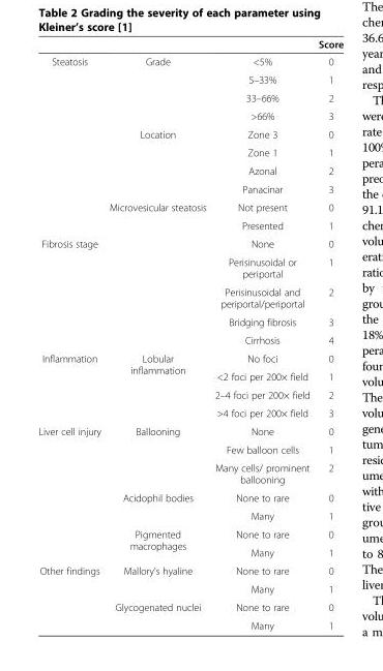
<table><thead><tr><td></td><td></td><td></td><td>Score</td></tr></thead><tbody><tr><td rowspan="10">Steatosis</td><td rowspan="4">Grade</td><td>&lt;5%</td><td>0</td></tr><tr><td>5–33%</td><td>1</td></tr><tr><td>33–66%</td><td>2</td></tr><tr><td>&gt;66%</td><td>3</td></tr><tr><td rowspan="4">Location</td><td>Zone 3</td><td>0</td></tr><tr><td>Zone 1</td><td>1</td></tr><tr><td>Azonal</td><td>2</td></tr><tr><td>Panacinar</td><td>3</td></tr><tr><td rowspan="2">Microvesicular steatosis</td><td>Not present</td><td>0</td></tr><tr><td>Presented</td><td>1</td></tr><tr><td rowspan="5">Fibrosis stage</td><td rowspan="5"></td><td>None</td><td>0</td></tr><tr><td>Perisinusoidal or periportal</td><td>1</td></tr><tr><td>Perisinusoidal and periportal/periportal</td><td>2</td></tr><tr><td>Bridging fibrosis</td><td>3</td></tr><tr><td>Cirrhosis</td><td>4</td></tr><tr><td rowspan="4">Inflammation</td><td rowspan="4">Lobular inflammation</td><td>No foci</td><td>0</td></tr><tr><td>&lt;2 foci per 200× field</td><td>1</td></tr><tr><td>2–4 foci per 200× field</td><td>2</td></tr><tr><td>&gt;4 foci per 200× field</td><td>3</td></tr><tr><td rowspan="7">Liver cell injury</td><td rowspan="3">Ballooning</td><td>None</td><td>0</td></tr><tr><td>Few balloon cells</td><td>1</td></tr><tr><td>Many cells/ prominent ballooning</td><td>2</td></tr><tr><td rowspan="2">Acidophil bodies</td><td>None to rare</td><td>0</td></tr><tr><td>Many</td><td>1</td></tr><tr><td rowspan="2">Pigmented macrophages</td><td>None to rare</td><td>0</td></tr><tr><td>Many</td><td>1</td></tr><tr><td rowspan="4">Other findings</td><td rowspan="2">Mallory&#x27;s hyaline</td><td>None to rare</td><td>0</td></tr><tr><td>Many</td><td>1</td></tr><tr><td>Glycogenated nuclei</td><td>None to rare</td><td>0</td></tr><tr><td></td><td>Many</td><td>1</td></tr></tbody></table>